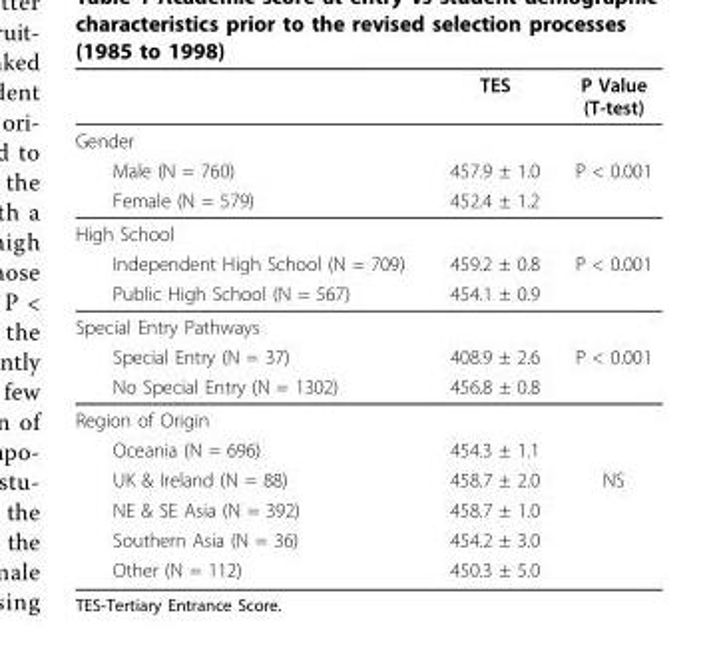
<table><thead><tr><td></td><td>TES</td><td>P Value (T-test)</td></tr></thead><tbody><tr><td colspan="3">Gender</td></tr><tr><td>Male (N = 760)</td><td>457.9 ± 1.0</td><td>P &lt; 0.001</td></tr><tr><td>Female (N = 579)</td><td>452.4 ± 1.2</td><td></td></tr><tr><td colspan="3">High School</td></tr><tr><td>Independent High School (N = 709)</td><td>459.2 ± 0.8</td><td>P &lt; 0.001</td></tr><tr><td>Public High School (N = 567)</td><td>454.1 ± 0.9</td><td></td></tr><tr><td colspan="3">Special Entry Pathways</td></tr><tr><td>Special Entry (N = 37)</td><td>408.9 ± 2.6</td><td>P &lt; 0.001</td></tr><tr><td>No Special Entry (N = 1302)</td><td>456.8 ± 0.8</td><td></td></tr><tr><td colspan="3">Region of Origin</td></tr><tr><td>Oceania (N = 696)</td><td>454.3 ± 1.1</td><td></td></tr><tr><td>UK &amp; Ireland (N = 88)</td><td>458.7 ± 2.0</td><td>NS</td></tr><tr><td>NE &amp; SE Asia (N = 392)</td><td>458.7 ± 1.0</td><td></td></tr><tr><td>Southern Asia (N = 36)</td><td>454.2 ± 3.0</td><td></td></tr><tr><td>Other (N = 112)</td><td>450.3 ± 5.0</td><td></td></tr></tbody></table>